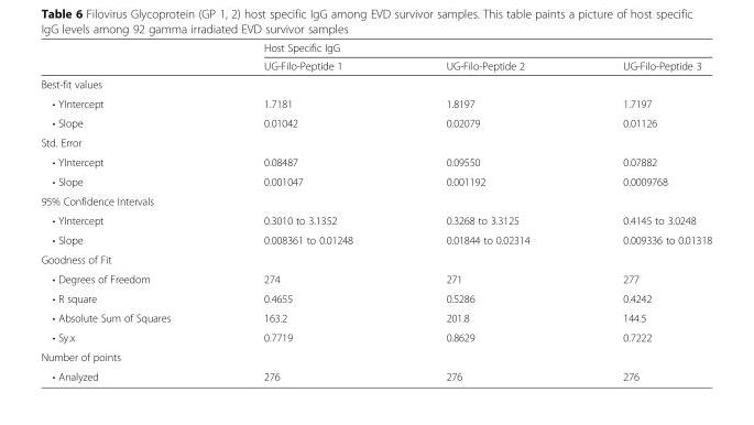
<table><thead><tr><td rowspan="2"></td><td colspan="3">Host Specific IgG</td></tr><tr><td>UG-Filo-Peptide 1</td><td>UG-Filo-Peptide 2</td><td>UG-Filo-Peptide 3</td></tr></thead><tbody><tr><td colspan="4">Best-fit values</td></tr><tr><td>• YIntercept</td><td>1.7181</td><td>1.8197</td><td>1.7197</td></tr><tr><td>• Slope</td><td>0.01042</td><td>0.02079</td><td>0.01126</td></tr><tr><td colspan="4">Std. Error</td></tr><tr><td>• YIntercept</td><td>0.08487</td><td>0.09550</td><td>0.07882</td></tr><tr><td>• Slope</td><td>0.001047</td><td>0.001192</td><td>0.0009768</td></tr><tr><td colspan="4">95% Confidence Intervals</td></tr><tr><td>• YIntercept</td><td>0.3010 to 3.1352</td><td>0.3268 to 3.3125</td><td>0.4145 to 3.0248</td></tr><tr><td>• Slope</td><td>0.008361 to 0.01248</td><td>0.01844 to 0.02314</td><td>0.009336 to 0.01318</td></tr><tr><td colspan="4">Goodness of Fit</td></tr><tr><td>• Degrees of Freedom</td><td>274</td><td>271</td><td>277</td></tr><tr><td>• R square</td><td>0.4655</td><td>0.5286</td><td>0.4242</td></tr><tr><td>• Absolute Sum of Squares</td><td>163.2</td><td>201.8</td><td>144.5</td></tr><tr><td>• Sy.x</td><td>0.7719</td><td>0.8629</td><td>0.7222</td></tr><tr><td colspan="4">Number of points</td></tr><tr><td>• Analyzed</td><td>276</td><td>276</td><td>276</td></tr></tbody></table>